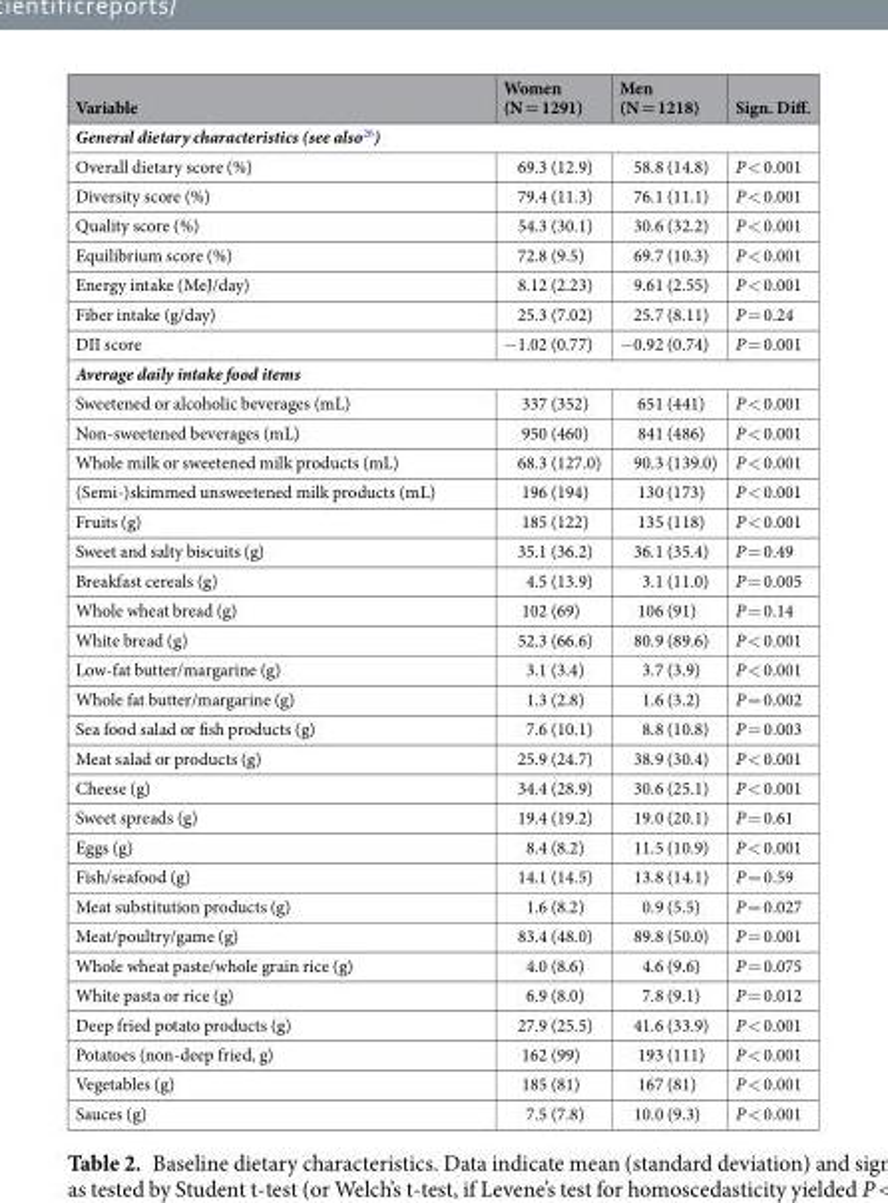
<table><thead><tr><td>Variable</td><td>Women (N = 1291)</td><td>Men (N = 1218)</td><td>Sign. Diff.</td></tr></thead><tbody><tr><td colspan="4">General dietary characteristics (see also<sup>26</sup>)</td></tr><tr><td>Overall dietary score (%)</td><td>69.3 (12.9)</td><td>58.8 (14.8)</td><td>P &lt; 0.001</td></tr><tr><td>Diversity score (%)</td><td>79.4 (11.3)</td><td>76.1 (11.1)</td><td>P &lt; 0.001</td></tr><tr><td>Quality score (%)</td><td>54.3 (30.1)</td><td>30.6 (32.2)</td><td>P &lt; 0.001</td></tr><tr><td>Equilibrium score (%)</td><td>72.8 (9.5)</td><td>69.7 (10.3)</td><td>P &lt; 0.001</td></tr><tr><td>Energy intake (MeJ/day)</td><td>8.12 (2.23)</td><td>9.61 (2.55)</td><td>P &lt; 0.001</td></tr><tr><td>Fiber intake (g/day)</td><td>25.3 (7.02)</td><td>25.7 (8.11)</td><td>P = 0.24</td></tr><tr><td>DII score</td><td>−1.02 (0.77)</td><td>−0.92 (0.74)</td><td>P = 0.001</td></tr><tr><td colspan="4">Average daily intake food items</td></tr><tr><td>Sweetened or alcoholic beverages (mL)</td><td>337 (352)</td><td>651 (441)</td><td>P &lt; 0.001</td></tr><tr><td>Non-sweetened beverages (mL)</td><td>950 (460)</td><td>841 (486)</td><td>P &lt; 0.001</td></tr><tr><td>Whole milk or sweetened milk products (mL)</td><td>68.3 (127.0)</td><td>90.3 (139.0)</td><td>P &lt; 0.001</td></tr><tr><td>(Semi-)skimmed unsweetened milk products (mL)</td><td>196 (194)</td><td>130 (173)</td><td>P &lt; 0.001</td></tr><tr><td>Fruits (g)</td><td>185 (122)</td><td>135 (118)</td><td>P &lt; 0.001</td></tr><tr><td>Sweet and salty biscuits (g)</td><td>35.1 (36.2)</td><td>36.1 (35.4)</td><td>P = 0.49</td></tr><tr><td>Breakfast cereals (g)</td><td>4.5 (13.9)</td><td>3.1 (11.0)</td><td>P = 0.005</td></tr><tr><td>Whole wheat bread (g)</td><td>102 (69)</td><td>106 (91)</td><td>P = 0.14</td></tr><tr><td>White bread (g)</td><td>52.3 (66.6)</td><td>80.9 (89.6)</td><td>P &lt; 0.001</td></tr><tr><td>Low-fat butter/margarine (g)</td><td>3.1 (3.4)</td><td>3.7 (3.9)</td><td>P &lt; 0.001</td></tr><tr><td>Whole fat butter/margarine (g)</td><td>1.3 (2.8)</td><td>1.6 (3.2)</td><td>P = 0.002</td></tr><tr><td>Sea food salad or fish products (g)</td><td>7.6 (10.1)</td><td>8.8 (10.8)</td><td>P = 0.003</td></tr><tr><td>Meat salad or products (g)</td><td>25.9 (24.7)</td><td>38.9 (30.4)</td><td>P &lt; 0.001</td></tr><tr><td>Cheese (g)</td><td>34.4 (28.9)</td><td>30.6 (25.1)</td><td>P &lt; 0.001</td></tr><tr><td>Sweet spreads (g)</td><td>19.4 (19.2)</td><td>19.0 (20.1)</td><td>P = 0.61</td></tr><tr><td>Eggs (g)</td><td>8.4 (8.2)</td><td>11.5 (10.9)</td><td>P &lt; 0.001</td></tr><tr><td>Fish/seafood (g)</td><td>14.1 (14.5)</td><td>13.8 (14.1)</td><td>P = 0.59</td></tr><tr><td>Meat substitution products (g)</td><td>1.6 (8.2)</td><td>0.9 (5.5)</td><td>P = 0.027</td></tr><tr><td>Meat/poultry/game (g)</td><td>83.4 (48.0)</td><td>89.8 (50.0)</td><td>P = 0.001</td></tr><tr><td>Whole wheat paste/whole grain rice (g)</td><td>4.0 (8.6)</td><td>4.6 (9.6)</td><td>P = 0.075</td></tr><tr><td>White pasta or rice (g)</td><td>6.9 (8.0)</td><td>7.8 (9.1)</td><td>P = 0.012</td></tr><tr><td>Deep fried potato products (g)</td><td>27.9 (25.5)</td><td>41.6 (33.9)</td><td>P &lt; 0.001</td></tr><tr><td>Potatoes (non-deep fried, g)</td><td>162 (99)</td><td>193 (111)</td><td>P &lt; 0.001</td></tr><tr><td>Vegetables (g)</td><td>185 (81)</td><td>167 (81)</td><td>P &lt; 0.001</td></tr><tr><td>Sauces (g)</td><td>7.5 (7.8)</td><td>10.0 (9.3)</td><td>P &lt; 0.001</td></tr></tbody></table>